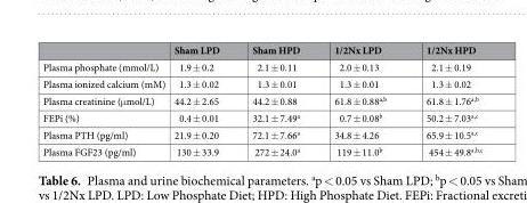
<table><thead><tr><td></td><td>Sham LPD</td><td>Sham HPD</td><td>1/2Nx LPD</td><td>1/2Nx HPD</td></tr></thead><tbody><tr><td>Plasma phosphate (mmol/L)</td><td>1.9 ± 0.2</td><td>2.1 ± 0.11</td><td>2.0 ± 0.13</td><td>2.1 ± 0.19</td></tr><tr><td>Plasma ionized calcium (mM)</td><td>1.3 ± 0.02</td><td>1.3 ± 0.01</td><td>1.3 ± 0.01</td><td>1.3 ± 0.02</td></tr><tr><td>Plasma creatinine (μmol/L)</td><td>44.2 ± 2.65</td><td>44.2 ± 0.88</td><td>61.8 ± 0.88<sup>a,b</sup></td><td>61.8 ± 1.76<sup>a,b</sup></td></tr><tr><td>FEPi (%)</td><td>0.4 ± 0.01</td><td>32.1 ± 7.49<sup>a</sup></td><td>0.7 ± 0.08<sup>b</sup></td><td>50.2 ± 7.03<sup>a,c</sup></td></tr><tr><td>Plasma PTH (pg/ml)</td><td>21.9 ± 0.20</td><td>72.1 ± 7.66<sup>a</sup></td><td>34.8 ± 4.26</td><td>65.9 ± 10.5<sup>a,c</sup></td></tr><tr><td>Plasma FGF23 (pg/ml)</td><td>130 ± 33.9</td><td>272 ± 24.0<sup>a</sup></td><td>119 ± 11.0<sup>b</sup></td><td>454 ± 49.8<sup>a,b,c</sup></td></tr></tbody></table>